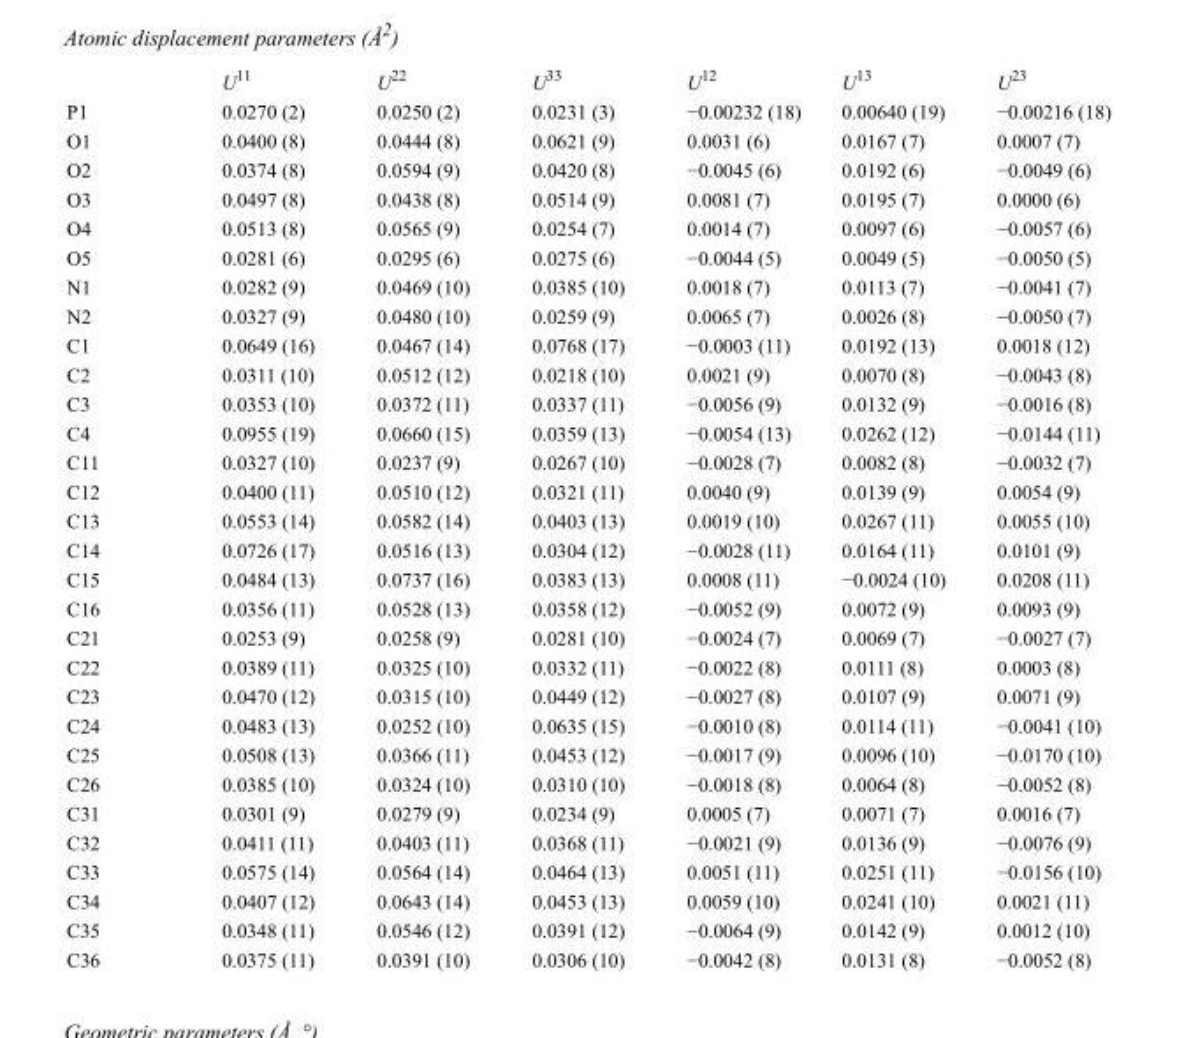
<table><thead><tr><td></td><td>U<sup>11</sup></td><td>U<sup>22</sup></td><td>U<sup>33</sup></td><td>U<sup>12</sup></td><td>U<sup>13</sup></td><td>U<sup>23</sup></td></tr></thead><tbody><tr><td>P1</td><td>0.0270 (2)</td><td>0.0250 (2)</td><td>0.0231 (3)</td><td>−0.00232 (18)</td><td>0.00640 (19)</td><td>−0.00216 (18)</td></tr><tr><td>O1</td><td>0.0400 (8)</td><td>0.0444 (8)</td><td>0.0621 (9)</td><td>0.0031 (6)</td><td>0.0167 (7)</td><td>0.0007 (7)</td></tr><tr><td>O2</td><td>0.0374 (8)</td><td>0.0594 (9)</td><td>0.0420 (8)</td><td>−0.0045 (6)</td><td>0.0192 (6)</td><td>−0.0049 (6)</td></tr><tr><td>O3</td><td>0.0497 (8)</td><td>0.0438 (8)</td><td>0.0514 (9)</td><td>0.0081 (7)</td><td>0.0195 (7)</td><td>0.0000 (6)</td></tr><tr><td>O4</td><td>0.0513 (8)</td><td>0.0565 (9)</td><td>0.0254 (7)</td><td>0.0014 (7)</td><td>0.0097 (6)</td><td>−0.0057 (6)</td></tr><tr><td>O5</td><td>0.0281 (6)</td><td>0.0295 (6)</td><td>0.0275 (6)</td><td>−0.0044 (5)</td><td>0.0049 (5)</td><td>−0.0050 (5)</td></tr><tr><td>N1</td><td>0.0282 (9)</td><td>0.0469 (10)</td><td>0.0385 (10)</td><td>0.0018 (7)</td><td>0.0113 (7)</td><td>−0.0041 (7)</td></tr><tr><td>N2</td><td>0.0327 (9)</td><td>0.0480 (10)</td><td>0.0259 (9)</td><td>0.0065 (7)</td><td>0.0026 (8)</td><td>−0.0050 (7)</td></tr><tr><td>C1</td><td>0.0649 (16)</td><td>0.0467 (14)</td><td>0.0768 (17)</td><td>−0.0003 (11)</td><td>0.0192 (13)</td><td>0.0018 (12)</td></tr><tr><td>C2</td><td>0.0311 (10)</td><td>0.0512 (12)</td><td>0.0218 (10)</td><td>0.0021 (9)</td><td>0.0070 (8)</td><td>−0.0043 (8)</td></tr><tr><td>C3</td><td>0.0353 (10)</td><td>0.0372 (11)</td><td>0.0337 (11)</td><td>−0.0056 (9)</td><td>0.0132 (9)</td><td>−0.0016 (8)</td></tr><tr><td>C4</td><td>0.0955 (19)</td><td>0.0660 (15)</td><td>0.0359 (13)</td><td>−0.0054 (13)</td><td>0.0262 (12)</td><td>−0.0144 (11)</td></tr><tr><td>C11</td><td>0.0327 (10)</td><td>0.0237 (9)</td><td>0.0267 (10)</td><td>−0.0028 (7)</td><td>0.0082 (8)</td><td>−0.0032 (7)</td></tr><tr><td>C12</td><td>0.0400 (11)</td><td>0.0510 (12)</td><td>0.0321 (11)</td><td>0.0040 (9)</td><td>0.0139 (9)</td><td>0.0054 (9)</td></tr><tr><td>C13</td><td>0.0553 (14)</td><td>0.0582 (14)</td><td>0.0403 (13)</td><td>0.0019 (10)</td><td>0.0267 (11)</td><td>0.0055 (10)</td></tr><tr><td>C14</td><td>0.0726 (17)</td><td>0.0516 (13)</td><td>0.0304 (12)</td><td>−0.0028 (11)</td><td>0.0164 (11)</td><td>0.0101 (9)</td></tr><tr><td>C15</td><td>0.0484 (13)</td><td>0.0737 (16)</td><td>0.0383 (13)</td><td>0.0008 (11)</td><td>−0.0024 (10)</td><td>0.0208 (11)</td></tr><tr><td>C16</td><td>0.0356 (11)</td><td>0.0528 (13)</td><td>0.0358 (12)</td><td>−0.0052 (9)</td><td>0.0072 (9)</td><td>0.0093 (9)</td></tr><tr><td>C21</td><td>0.0253 (9)</td><td>0.0258 (9)</td><td>0.0281 (10)</td><td>−0.0024 (7)</td><td>0.0069 (7)</td><td>−0.0027 (7)</td></tr><tr><td>C22</td><td>0.0389 (11)</td><td>0.0325 (10)</td><td>0.0332 (11)</td><td>−0.0022 (8)</td><td>0.0111 (8)</td><td>0.0003 (8)</td></tr><tr><td>C23</td><td>0.0470 (12)</td><td>0.0315 (10)</td><td>0.0449 (12)</td><td>−0.0027 (8)</td><td>0.0107 (9)</td><td>0.0071 (9)</td></tr><tr><td>C24</td><td>0.0483 (13)</td><td>0.0252 (10)</td><td>0.0635 (15)</td><td>−0.0010 (8)</td><td>0.0114 (11)</td><td>−0.0041 (10)</td></tr><tr><td>C25</td><td>0.0508 (13)</td><td>0.0366 (11)</td><td>0.0453 (12)</td><td>−0.0017 (9)</td><td>0.0096 (10)</td><td>−0.0170 (10)</td></tr><tr><td>C26</td><td>0.0385 (10)</td><td>0.0324 (10)</td><td>0.0310 (10)</td><td>−0.0018 (8)</td><td>0.0064 (8)</td><td>−0.0052 (8)</td></tr><tr><td>C31</td><td>0.0301 (9)</td><td>0.0279 (9)</td><td>0.0234 (9)</td><td>0.0005 (7)</td><td>0.0071 (7)</td><td>0.0016 (7)</td></tr><tr><td>C32</td><td>0.0411 (11)</td><td>0.0403 (11)</td><td>0.0368 (11)</td><td>−0.0021 (9)</td><td>0.0136 (9)</td><td>−0.0076 (9)</td></tr><tr><td>C33</td><td>0.0575 (14)</td><td>0.0564 (14)</td><td>0.0464 (13)</td><td>0.0051 (11)</td><td>0.0251 (11)</td><td>−0.0156 (10)</td></tr><tr><td>C34</td><td>0.0407 (12)</td><td>0.0643 (14)</td><td>0.0453 (13)</td><td>0.0059 (10)</td><td>0.0241 (10)</td><td>0.0021 (11)</td></tr><tr><td>C35</td><td>0.0348 (11)</td><td>0.0546 (12)</td><td>0.0391 (12)</td><td>−0.0064 (9)</td><td>0.0142 (9)</td><td>0.0012 (10)</td></tr><tr><td>C36</td><td>0.0375 (11)</td><td>0.0391 (10)</td><td>0.0306 (10)</td><td>−0.0042 (8)</td><td>0.0131 (8)</td><td>−0.0052 (8)</td></tr></tbody></table>